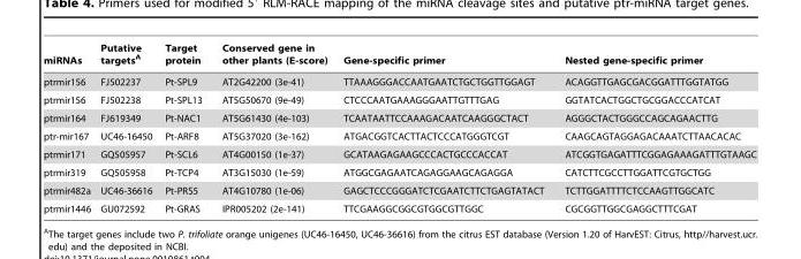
<table><thead><tr><td>miRNAs</td><td>Putative targets<sup>A</sup></td><td>Target protein</td><td>Conserved gene in other plants (E-score)</td><td>Gene-specific primer</td><td>Nested gene-specific primer</td></tr></thead><tbody><tr><td>ptrmir156</td><td>FJ502237</td><td>Pt-SPL9</td><td>AT2G42200 (3e-41)</td><td>TTAAAGGGACCAATGAATCTGCTGGTTGGAGT</td><td>ACAGGTTGAGCGACGGATTTGGTATGG</td></tr><tr><td>ptrmir156</td><td>FJ502238</td><td>Pt-SPL13</td><td>AT5G50670 (9e-49)</td><td>CTCCCAATGAAAGGGAATTGTTTGAG</td><td>GGTATCACTGGCTGCGGACCCATCAT</td></tr><tr><td>ptrmir164</td><td>FJ619349</td><td>Pt-NAC1</td><td>AT5G61430 (4e-103)</td><td>TCAATAATTCCAAAGACAATCAAGGGCTACT</td><td>AGGGCTACTGGGCCAGCAGAACTTG</td></tr><tr><td>ptr-mir167</td><td>UC46-16450</td><td>Pt-ARF8</td><td>AT5G37020 (3e-162)</td><td>ATGACGGTCACTTACTCCCATGGGTCGT</td><td>CAAGCAGTAGGAGACAAATCTTAACACAC</td></tr><tr><td>ptrmir171</td><td>GQ505957</td><td>Pt-SCL6</td><td>AT4G00150 (1e-37)</td><td>GCATAAGAGAAGCCCACTGCCCACCAT</td><td>ATCGGTGAGATTTCGGAGAAAGATTTGTAAGC</td></tr><tr><td>ptrmir319</td><td>GQ505958</td><td>Pt-TCP4</td><td>AT3G15030 (1e-59)</td><td>ATGGCGAGAATCAGAGGAAGCAGAGGA</td><td>CATCTTCGCCTTGGATTCGTGCTGG</td></tr><tr><td>ptrmir482a</td><td>UC46-36616</td><td>Pt-PRS5</td><td>AT4G10780 (1e-06)</td><td>GAGCTCCCGGGATCTCGAATCTTCTGAGTATACT</td><td>TCTTGGATTTTCTCCAAGTTGGCATC</td></tr><tr><td>ptrmir1446</td><td>GU072592</td><td>Pt-GRAS</td><td>IPR005202 (2e-141)</td><td>TTCGAAGGCGGCGTGGCGTTGGC</td><td>CGCGGTTGGCGAGGCTTTCGAT</td></tr></tbody></table>